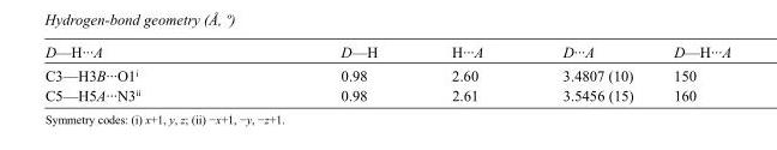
<table><tbody><tr><td>D—H···A</td><td>D—H</td><td>H···A</td><td>D···A</td><td>D—H···A</td></tr><tr><td>C3—H3B···O1<sup>i</sup></td><td>0.98</td><td>2.60</td><td>3.4807 (10)</td><td>150</td></tr><tr><td>C5—H5A···N3<sup>ii</sup></td><td>0.98</td><td>2.61</td><td>3.5456 (15)</td><td>160</td></tr></tbody></table>